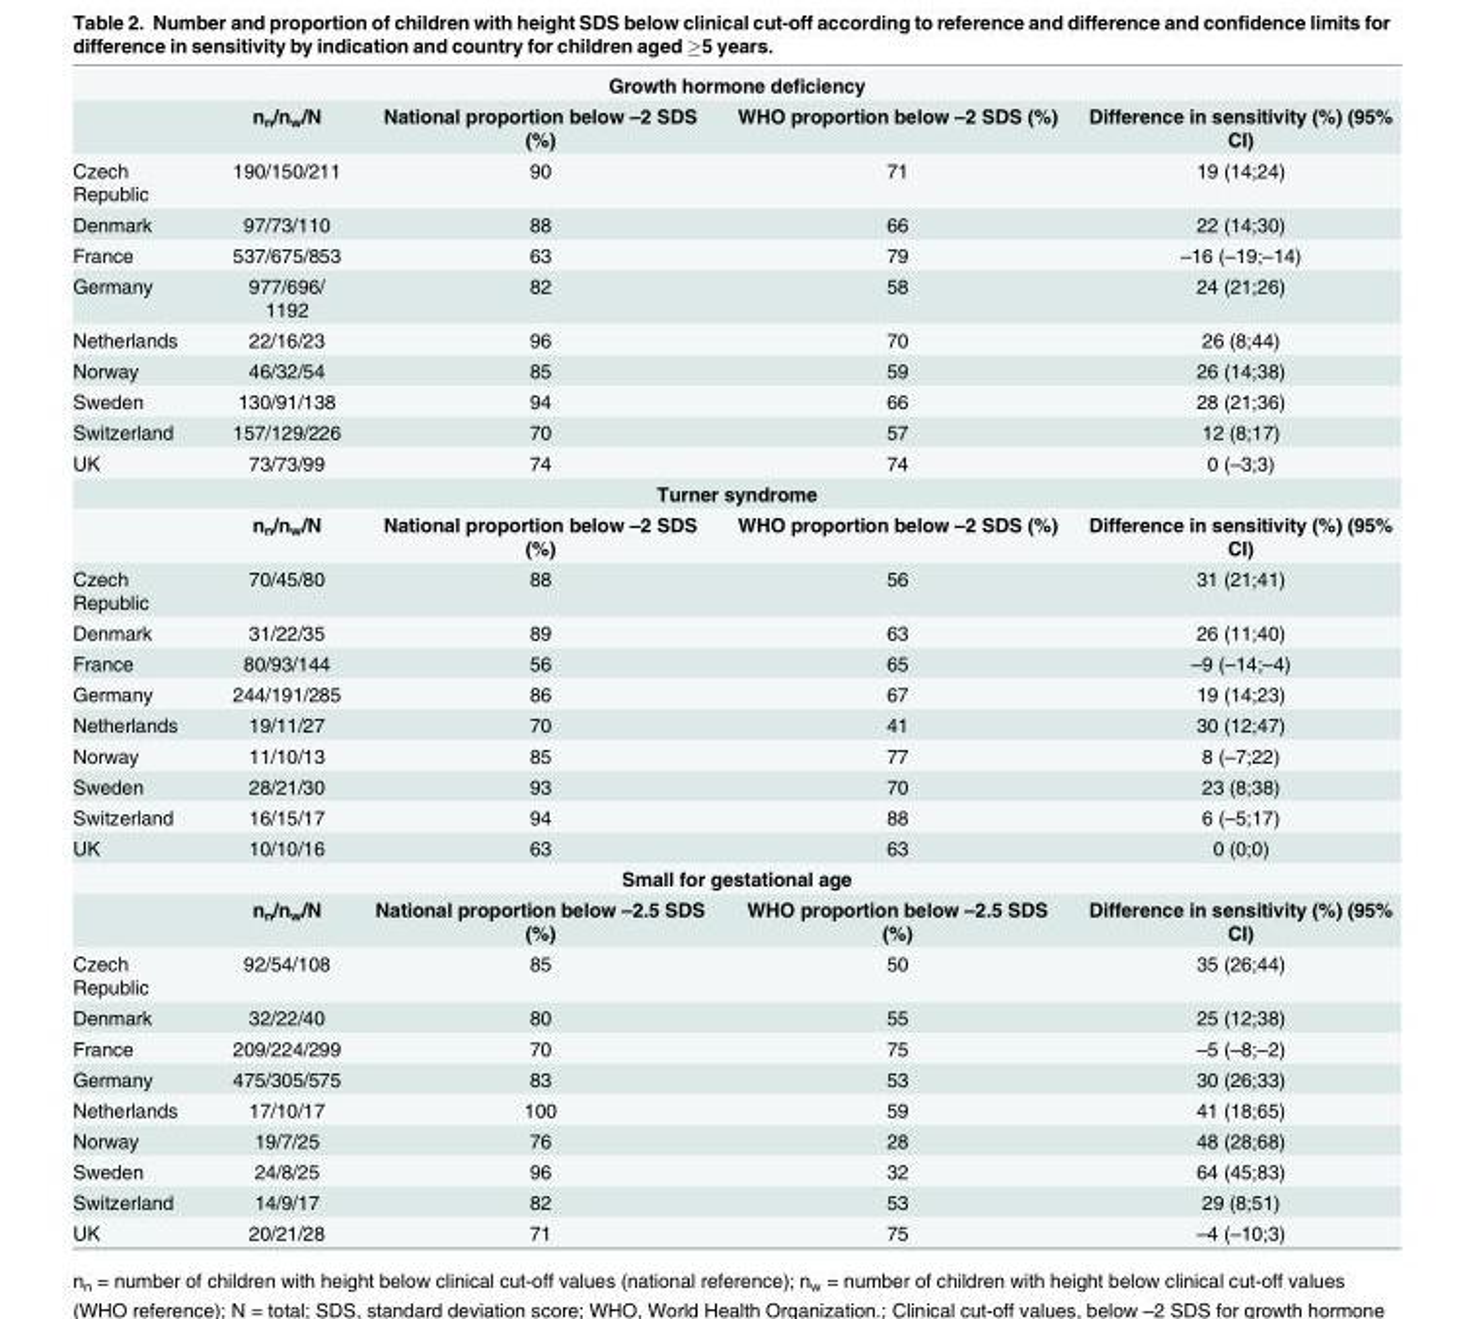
<table><tbody><tr><td colspan="5">Growth hormone deficiency</td></tr><tr><td></td><td>n<sub>n</sub>/n<sub>w</sub>/N</td><td>National proportion below –2 SDS (%)</td><td>WHO proportion below –2 SDS (%)</td><td>Difference in sensitivity (%) (95% CI)</td></tr><tr><td>Czech Republic</td><td>190/150/211</td><td>90</td><td>71</td><td>19 (14;24)</td></tr><tr><td>Denmark</td><td>97/73/110</td><td>88</td><td>66</td><td>22 (14;30)</td></tr><tr><td>France</td><td>537/675/853</td><td>63</td><td>79</td><td>–16 (–19;–14)</td></tr><tr><td>Germany</td><td>977/696/ 1192</td><td>82</td><td>58</td><td>24 (21;26)</td></tr><tr><td>Netherlands</td><td>22/16/23</td><td>96</td><td>70</td><td>26 (8;44)</td></tr><tr><td>Norway</td><td>46/32/54</td><td>85</td><td>59</td><td>26 (14;38)</td></tr><tr><td>Sweden</td><td>130/91/138</td><td>94</td><td>66</td><td>28 (21;36)</td></tr><tr><td>Switzerland</td><td>157/129/226</td><td>70</td><td>57</td><td>12 (8;17)</td></tr><tr><td>UK</td><td>73/73/99</td><td>74</td><td>74</td><td>0 (–3;3)</td></tr><tr><td colspan="5">Turner syndrome</td></tr><tr><td></td><td>n<sub>n</sub>/n<sub>w</sub>/N</td><td>National proportion below –2 SDS (%)</td><td>WHO proportion below –2 SDS (%)</td><td>Difference in sensitivity (%) (95% CI)</td></tr><tr><td>Czech Republic</td><td>70/45/80</td><td>88</td><td>56</td><td>31 (21;41)</td></tr><tr><td>Denmark</td><td>31/22/35</td><td>89</td><td>63</td><td>26 (11;40)</td></tr><tr><td>France</td><td>80/93/144</td><td>56</td><td>65</td><td>–9 (–14;–4)</td></tr><tr><td>Germany</td><td>244/191/285</td><td>86</td><td>67</td><td>19 (14;23)</td></tr><tr><td>Netherlands</td><td>19/11/27</td><td>70</td><td>41</td><td>30 (12;47)</td></tr><tr><td>Norway</td><td>11/10/13</td><td>85</td><td>77</td><td>8 (–7;22)</td></tr><tr><td>Sweden</td><td>28/21/30</td><td>93</td><td>70</td><td>23 (8;38)</td></tr><tr><td>Switzerland</td><td>16/15/17</td><td>94</td><td>88</td><td>6 (–5;17)</td></tr><tr><td>UK</td><td>10/10/16</td><td>63</td><td>63</td><td>0 (0;0)</td></tr><tr><td colspan="5">Small for gestational age</td></tr><tr><td></td><td>n<sub>n</sub>/n<sub>w</sub>/N</td><td>National proportion below –2.5 SDS (%)</td><td>WHO proportion below –2.5 SDS (%)</td><td>Difference in sensitivity (%) (95% CI)</td></tr><tr><td>Czech Republic</td><td>92/54/108</td><td>85</td><td>50</td><td>35 (26;44)</td></tr><tr><td>Denmark</td><td>32/22/40</td><td>80</td><td>55</td><td>25 (12;38)</td></tr><tr><td>France</td><td>209/224/299</td><td>70</td><td>75</td><td>–5 (–8;–2)</td></tr><tr><td>Germany</td><td>475/305/575</td><td>83</td><td>53</td><td>30 (26;33)</td></tr><tr><td>Netherlands</td><td>17/10/17</td><td>100</td><td>59</td><td>41 (18;65)</td></tr><tr><td>Norway</td><td>19/7/25</td><td>76</td><td>28</td><td>48 (28;68)</td></tr><tr><td>Sweden</td><td>24/8/25</td><td>96</td><td>32</td><td>64 (45;83)</td></tr><tr><td>Switzerland</td><td>14/9/17</td><td>82</td><td>53</td><td>29 (8;51)</td></tr><tr><td>UK</td><td>20/21/28</td><td>71</td><td>75</td><td>–4 (–10;3)</td></tr></tbody></table>